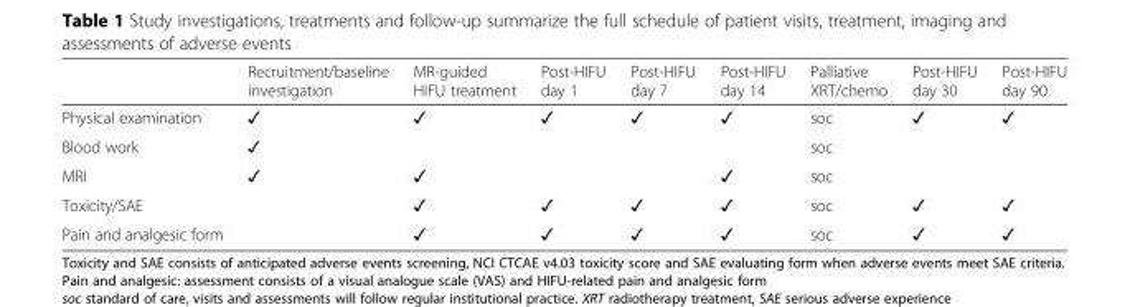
<table><thead><tr><td></td><td>Recruitment/baseline investigation</td><td>MR-guided HIFU treatment</td><td>Post-HIFU day 1</td><td>Post-HIFU day 7</td><td>Post-HIFU day 14</td><td>Palliative XRT/chemo</td><td>Post-HIFU day 30</td><td>Post-HIFU day 90</td></tr></thead><tbody><tr><td>Physical examination</td><td>✓</td><td>✓</td><td>✓</td><td>✓</td><td>✓</td><td>soc</td><td>✓</td><td>✓</td></tr><tr><td>Blood work</td><td>✓</td><td></td><td></td><td></td><td></td><td>soc</td><td></td><td></td></tr><tr><td>MRI</td><td>✓</td><td>✓</td><td></td><td></td><td>✓</td><td>soc</td><td></td><td></td></tr><tr><td>Toxicity/SAE</td><td></td><td>✓</td><td>✓</td><td>✓</td><td>✓</td><td>soc</td><td>✓</td><td>✓</td></tr><tr><td>Pain and analgesic form</td><td></td><td>✓</td><td>✓</td><td>✓</td><td>✓</td><td>soc</td><td>✓</td><td>✓</td></tr></tbody></table>